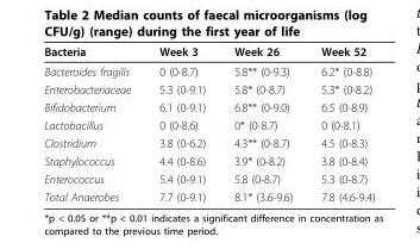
<table><thead><tr><td>Bacteria</td><td>Week 3</td><td>Week 26</td><td>Week 52</td></tr></thead><tbody><tr><td>Bacteroides fragilis</td><td>0 (0-8.7)</td><td>5.8** (0-9.3)</td><td>6.2* (0-8.8)</td></tr><tr><td>Enterobacteriaceae</td><td>5.3 (0-9.1)</td><td>5.8* (0-8.7)</td><td>5.3* (0-8.2)</td></tr><tr><td>Bifidobacterium</td><td>6.1 (0-9.1)</td><td>6.8** (0-9.0)</td><td>6.5 (0-8.9)</td></tr><tr><td>Lactobacillus</td><td>0 (0-8.6)</td><td>0* (0-8.7)</td><td>0 (0-8.1)</td></tr><tr><td>Clostridium</td><td>3.8 (0-6.2)</td><td>4.3** (0-8.7)</td><td>4.5 (0-8.3)</td></tr><tr><td>Staphylococcus</td><td>4.4 (0-8.6)</td><td>3.9* (0-8.2)</td><td>3.8 (0-8.4)</td></tr><tr><td>Enterococcus</td><td>5.4 (0-9.1)</td><td>5.8 (0-8.7)</td><td>5.3 (0-8.7)</td></tr><tr><td>Total Anaerobes</td><td>7.7 (0-9.1)</td><td>8.1* (3.6-9.6)</td><td>7.8 (4.6-9.4)</td></tr></tbody></table>